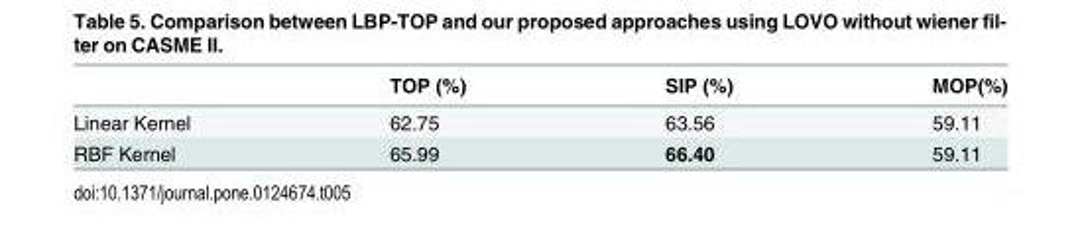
<table><thead><tr><td></td><td>TOP (%)</td><td>SIP (%)</td><td>MOP(%)</td></tr></thead><tbody><tr><td>Linear Kernel</td><td>62.75</td><td>63.56</td><td>59.11</td></tr><tr><td>RBF Kernel</td><td>65.99</td><td>66.40</td><td>59.11</td></tr></tbody></table>